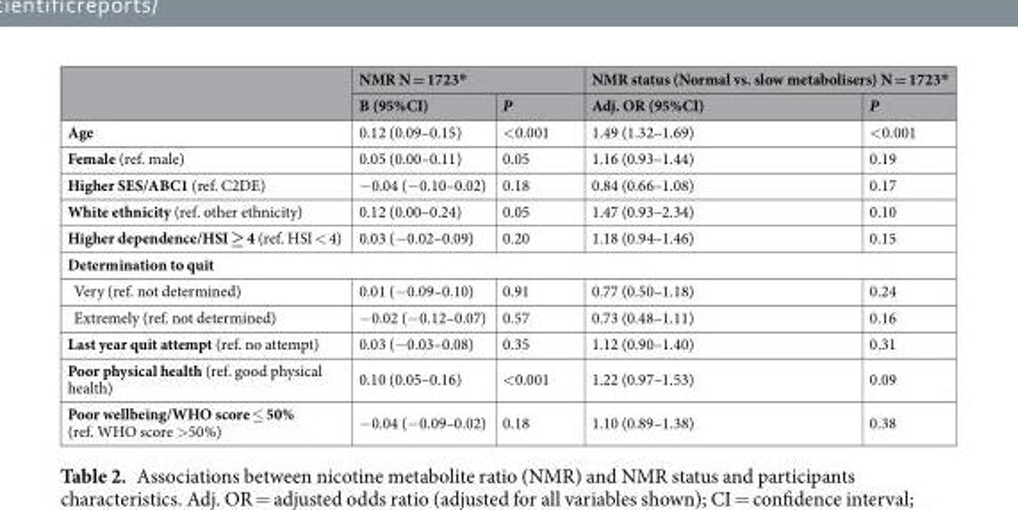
<table><thead><tr><td rowspan="2"></td><td colspan="2">NMR N = 1723*</td><td colspan="2">NMR status (Normal vs. slow metabolisers) N = 1723*</td></tr><tr><td>B (95%CI)</td><td>P</td><td>Adj. OR (95%CI)</td><td>P</td></tr></thead><tbody><tr><td>Age</td><td>0.12 (0.09–0.15)</td><td>&lt;0.001</td><td>1.49 (1.32–1.69)</td><td>&lt;0.001</td></tr><tr><td>Female (ref. male)</td><td>0.05 (0.00–0.11)</td><td>0.05</td><td>1.16 (0.93–1.44)</td><td>0.19</td></tr><tr><td>Higher SES/ABC1 (ref. C2DE)</td><td>−0.04 (−0.10–0.02)</td><td>0.18</td><td>0.84 (0.66–1.08)</td><td>0.17</td></tr><tr><td>White ethnicity (ref. other ethnicity)</td><td>0.12 (0.00–0.24)</td><td>0.05</td><td>1.47 (0.93–2.34)</td><td>0.10</td></tr><tr><td>Higher dependence/HSI ≥ 4 (ref. HSI &lt; 4)</td><td>0.03 (−0.02–0.09)</td><td>0.20</td><td>1.18 (0.94–1.46)</td><td>0.15</td></tr><tr><td colspan="5">Determination to quit</td></tr><tr><td>Very (ref. not determined)</td><td>0.01 (−0.09–0.10)</td><td>0.91</td><td>0.77 (0.50–1.18)</td><td>0.24</td></tr><tr><td>Extremely (ref. not determined)</td><td>−0.02 (−0.12–0.07)</td><td>0.57</td><td>0.73 (0.48–1.11)</td><td>0.16</td></tr><tr><td>Last year quit attempt (ref. no attempt)</td><td>0.03 (−0.03–0.08)</td><td>0.35</td><td>1.12 (0.90–1.40)</td><td>0.31</td></tr><tr><td>Poor physical health (ref. good physical health)</td><td>0.10 (0.05–0.16)</td><td>&lt;0.001</td><td>1.22 (0.97–1.53)</td><td>0.09</td></tr><tr><td>Poor wellbeing/WHO score ≤ 50% (ref. WHO score &gt;50%)</td><td>−0.04 (−0.09–0.02)</td><td>0.18</td><td>1.10 (0.89–1.38)</td><td>0.38</td></tr></tbody></table>